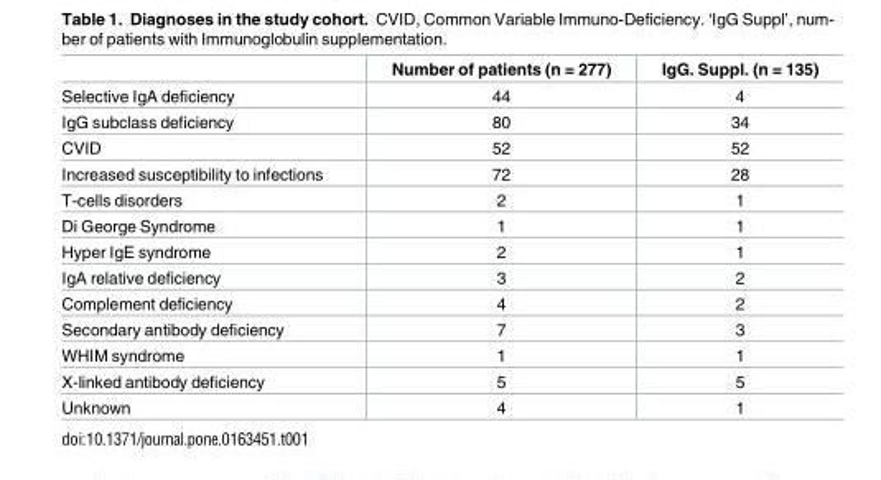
<table><thead><tr><td></td><td>Number of patients (n = 277)</td><td>IgG. Suppl. (n = 135)</td></tr></thead><tbody><tr><td>Selective IgA deficiency</td><td>44</td><td>4</td></tr><tr><td>IgG subclass deficiency</td><td>80</td><td>34</td></tr><tr><td>CVID</td><td>52</td><td>52</td></tr><tr><td>Increased susceptibility to infections</td><td>72</td><td>28</td></tr><tr><td>T-cells disorders</td><td>2</td><td>1</td></tr><tr><td>Di George Syndrome</td><td>1</td><td>1</td></tr><tr><td>Hyper IgE syndrome</td><td>2</td><td>1</td></tr><tr><td>IgA relative deficiency</td><td>3</td><td>2</td></tr><tr><td>Complement deficiency</td><td>4</td><td>2</td></tr><tr><td>Secondary antibody deficiency</td><td>7</td><td>3</td></tr><tr><td>WHIM syndrome</td><td>1</td><td>1</td></tr><tr><td>X-linked antibody deficiency</td><td>5</td><td>5</td></tr><tr><td>Unknown</td><td>4</td><td>1</td></tr></tbody></table>